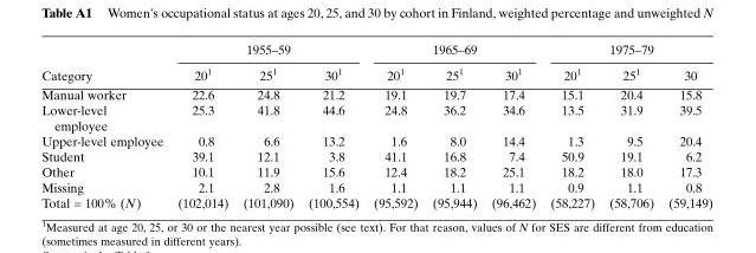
<table><thead><tr><td rowspan="2">Category</td><td colspan="3">1955–59</td><td colspan="3">1965–69</td><td colspan="3">1975–79</td></tr><tr><td>20<sup>1</sup></td><td>25<sup>1</sup></td><td>30<sup>1</sup></td><td>20<sup>1</sup></td><td>25<sup>1</sup></td><td>30<sup>1</sup></td><td>20<sup>1</sup></td><td>25<sup>1</sup></td><td>30</td></tr></thead><tbody><tr><td>Manual worker</td><td>22.6</td><td>24.8</td><td>21.2</td><td>19.1</td><td>19.7</td><td>17.4</td><td>15.1</td><td>20.4</td><td>15.8</td></tr><tr><td>Lower-level employee</td><td>25.3</td><td>41.8</td><td>44.6</td><td>24.8</td><td>36.2</td><td>34.6</td><td>13.5</td><td>31.9</td><td>39.5</td></tr><tr><td>Upper-level employee</td><td>0.8</td><td>6.6</td><td>13.2</td><td>1.6</td><td>8.0</td><td>14.4</td><td>1.3</td><td>9.5</td><td>20.4</td></tr><tr><td>Student</td><td>39.1</td><td>12.1</td><td>3.8</td><td>41.1</td><td>16.8</td><td>7.4</td><td>50.9</td><td>19.1</td><td>6.2</td></tr><tr><td>Other</td><td>10.1</td><td>11.9</td><td>15.6</td><td>12.4</td><td>18.2</td><td>25.1</td><td>18.2</td><td>18.0</td><td>17.3</td></tr><tr><td>Missing</td><td>2.1</td><td>2.8</td><td>1.6</td><td>1.1</td><td>1.1</td><td>1.1</td><td>0.9</td><td>1.1</td><td>0.8</td></tr><tr><td>Total = 100% (N)</td><td>(102,014)</td><td>(101,090)</td><td>(100,554)</td><td>(95,592)</td><td>(95,944)</td><td>(96,462)</td><td>(58,227)</td><td>(58,706)</td><td>(59,149)</td></tr></tbody></table>